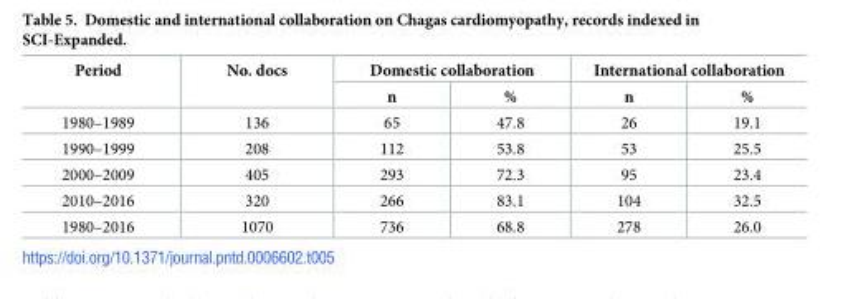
<table><thead><tr><td rowspan="2">Period</td><td rowspan="2">No. docs</td><td colspan="2">Domestic collaboration</td><td colspan="2">International collaboration</td></tr><tr><td>n</td><td>%</td><td>n</td><td>%</td></tr></thead><tbody><tr><td>1980–1989</td><td>136</td><td>65</td><td>47.8</td><td>26</td><td>19.1</td></tr><tr><td>1990–1999</td><td>208</td><td>112</td><td>53.8</td><td>53</td><td>25.5</td></tr><tr><td>2000–2009</td><td>405</td><td>293</td><td>72.3</td><td>95</td><td>23.4</td></tr><tr><td>2010–2016</td><td>320</td><td>266</td><td>83.1</td><td>104</td><td>32.5</td></tr><tr><td>1980–2016</td><td>1070</td><td>736</td><td>68.8</td><td>278</td><td>26.0</td></tr></tbody></table>